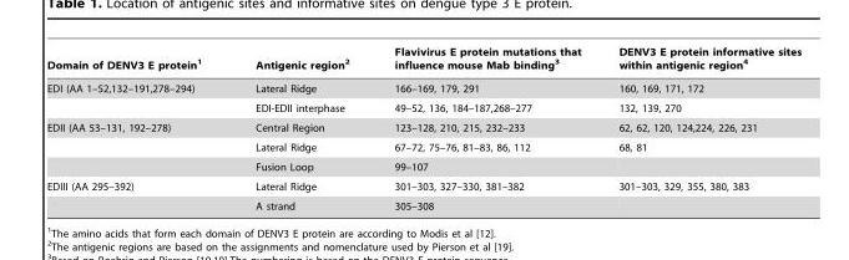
<table><thead><tr><td>Domain of DENV3 E protein<sup>1</sup></td><td>Antigenic region<sup>2</sup></td><td>Flavivirus E protein mutations that influence mouse Mab binding<sup>3</sup></td><td>DENV3 E protein informative sites within antigenic region<sup>4</sup></td></tr></thead><tbody><tr><td rowspan="2">EDI (AA 1–52,132–191,278–294)</td><td>Lateral Ridge</td><td>166–169, 179, 291</td><td>160, 169, 171, 172</td></tr><tr><td>EDI-EDII interphase</td><td>49–52, 136, 184–187,268–277</td><td>132, 139, 270</td></tr><tr><td rowspan="3">EDII (AA 53–131, 192–278)</td><td>Central Region</td><td>123–128, 210, 215, 232–233</td><td>62, 62, 120, 124,224, 226, 231</td></tr><tr><td>Lateral Ridge</td><td>67–72, 75–76, 81–83, 86, 112</td><td>68, 81</td></tr><tr><td>Fusion Loop</td><td>99–107</td><td></td></tr><tr><td rowspan="2">EDIII (AA 295–392)</td><td>Lateral Ridge</td><td>301–303, 327–330, 381–382</td><td>301–303, 329, 355, 380, 383</td></tr><tr><td>A strand</td><td>305–308</td><td></td></tr></tbody></table>